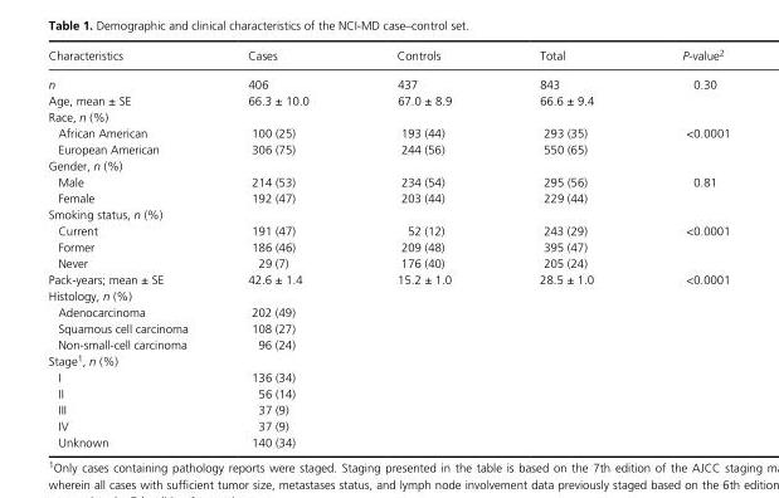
<table><thead><tr><td>Characteristics</td><td>Cases</td><td>Controls</td><td>Total</td><td>P-value2</td></tr></thead><tbody><tr><td>n</td><td>406</td><td>437</td><td>843</td><td>0.30</td></tr><tr><td>Age, mean ± SE</td><td>66.3 ± 10.0</td><td>67.0 ± 8.9</td><td>66.6 ± 9.4</td><td></td></tr><tr><td colspan="5">Race, n (%)</td></tr><tr><td>African American</td><td>100 (25)</td><td>193 (44)</td><td>293 (35)</td><td>&lt;0.0001</td></tr><tr><td>European American</td><td>306 (75)</td><td>244 (56)</td><td>550 (65)</td><td></td></tr><tr><td colspan="5">Gender, n (%)</td></tr><tr><td>Male</td><td>214 (53)</td><td>234 (54)</td><td>295 (56)</td><td>0.81</td></tr><tr><td>Female</td><td>192 (47)</td><td>203 (44)</td><td>229 (44)</td><td></td></tr><tr><td colspan="5">Smoking status, n (%)</td></tr><tr><td>Current</td><td>191 (47)</td><td>52 (12)</td><td>243 (29)</td><td rowspan="3">&lt;0.0001</td></tr><tr><td>Former</td><td>186 (46)</td><td>209 (48)</td><td>395 (47)</td></tr><tr><td>Never</td><td>29 (7)</td><td>176 (40)</td><td>205 (24)</td></tr><tr><td>Pack- years; mean ± SE</td><td>42.6 ± 1.4</td><td>15.2 ± 1.0</td><td>28.5 ± 1.0</td><td>&lt;0.0001</td></tr><tr><td colspan="5">Histology, n (%)</td></tr><tr><td>Adenocarcinoma</td><td>202 (49)</td><td></td><td></td><td></td></tr><tr><td>Squamous cell carcinoma</td><td>108 (27)</td><td></td><td></td><td></td></tr><tr><td>Non- small- cell carcinoma</td><td>96 (24)</td><td></td><td></td><td></td></tr><tr><td colspan="5">Stage1, n (%)</td></tr><tr><td>I</td><td>136 (34)</td><td></td><td></td><td></td></tr><tr><td>II</td><td>56 (14)</td><td></td><td></td><td></td></tr><tr><td>III</td><td>37 (9)</td><td></td><td></td><td></td></tr><tr><td>IV</td><td>37 (9)</td><td></td><td></td><td></td></tr><tr><td>Unknown</td><td>140 (34)</td><td></td><td></td><td></td></tr></tbody></table>